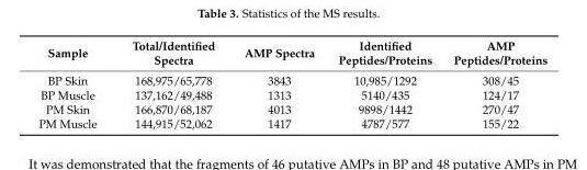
<table><thead><tr><td>Sample</td><td>Total/Identified Spectra</td><td>AMP Spectra</td><td>Identified Peptides/Proteins</td><td>AMP Peptides/Proteins</td></tr></thead><tbody><tr><td>BP Skin</td><td>168,975/65,778</td><td>3843</td><td>10,985/1292</td><td>308/45</td></tr><tr><td>BP Muscle</td><td>137,162/49,488</td><td>1313</td><td>5140/435</td><td>124/17</td></tr><tr><td>PM Skin</td><td>166,870/68,187</td><td>4013</td><td>9898/1442</td><td>270/47</td></tr><tr><td>PM Muscle</td><td>144,915/52,062</td><td>1417</td><td>4787/577</td><td>155/22</td></tr></tbody></table>